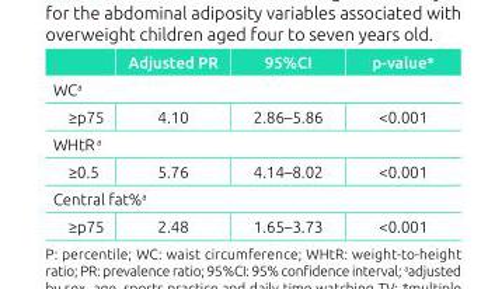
<table><thead><tr><td></td><td>Adjusted PR</td><td>95%CI</td><td>p-value*</td></tr></thead><tbody><tr><td colspan="4">WC<sup>a</sup></td></tr><tr><td>≥p75</td><td>4.10</td><td>2.86–5.86</td><td>&lt;0.001</td></tr><tr><td colspan="4">WHtR <sup>a</sup></td></tr><tr><td>≥0.5</td><td>5.76</td><td>4.14–8.02</td><td>&lt;0.001</td></tr><tr><td colspan="4">Central fat%<sup>a</sup></td></tr><tr><td>≥p75</td><td>2.48</td><td>1.65–3.73</td><td>&lt;0.001</td></tr></tbody></table>